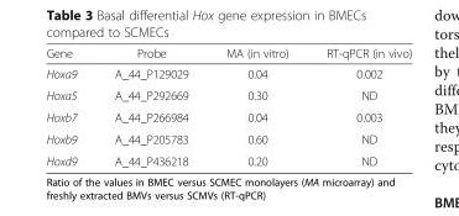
<table><thead><tr><td>Gene</td><td>Probe</td><td>MA (in vitro)</td><td>RT-qPCR (in vivo)</td></tr></thead><tbody><tr><td>Hoxa9</td><td>A_44_P129029</td><td>0.04</td><td>0.002</td></tr><tr><td>Hoxa5</td><td>A_44_P292669</td><td>0.30</td><td>ND</td></tr><tr><td>Hoxb7</td><td>A_44_P266984</td><td>0.04</td><td>0.003</td></tr><tr><td>Hoxb9</td><td>A_44_P205783</td><td>0.60</td><td>ND</td></tr><tr><td>Hoxd9</td><td>A_44_P436218</td><td>0.20</td><td>ND</td></tr></tbody></table>